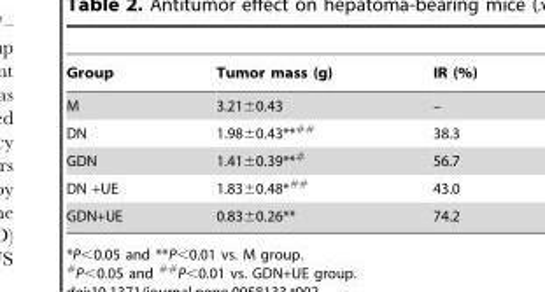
<table><thead><tr><td>Group</td><td>Tumor mass (g)</td><td>IR (%)</td></tr></thead><tbody><tr><td>M</td><td>3.21±0.43</td><td>–</td></tr><tr><td>DN</td><td>1.98±0.43**<sup>##</sup></td><td>38.3</td></tr><tr><td>GDN</td><td>1.41±0.39**#</td><td>56.7</td></tr><tr><td>DN +UE</td><td>1.83±0.48*<sup>##</sup></td><td>43.0</td></tr><tr><td>GDN+UE</td><td>0.83±0.26**</td><td>74.2</td></tr></tbody></table>